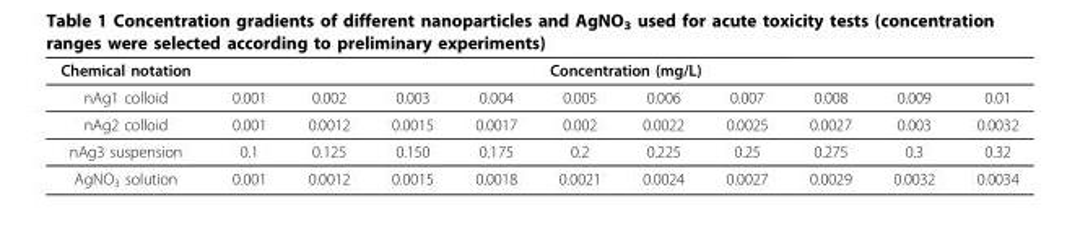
<table><thead><tr><td rowspan="2">Chemical notation nAg1 colloid</td><td colspan="10">Concentration (mg/L)</td></tr><tr><td>0.001</td><td>0.002</td><td>0.003</td><td>0.004</td><td>0.005</td><td>0.006</td><td>0.007</td><td>0.008</td><td>0.009</td><td>0.01</td></tr></thead><tbody><tr><td>nAg2 colloid</td><td>0.001</td><td>0.0012</td><td>0.0015</td><td>0.0017</td><td>0.002</td><td>0.0022</td><td>0.0025</td><td>0.0027</td><td>0.003</td><td>0.0032</td></tr><tr><td>nAg3 suspension</td><td>0.1</td><td>0.125</td><td>0.150</td><td>0.175</td><td>0.2</td><td>0.225</td><td>0.25</td><td>0.275</td><td>0.3</td><td>0.32</td></tr><tr><td>AgNO<sub>3</sub> solution</td><td>0.001</td><td>0.0012</td><td>0.0015</td><td>0.0018</td><td>0.0021</td><td>0.0024</td><td>0.0027</td><td>0.0029</td><td>0.0032</td><td>0.0034</td></tr></tbody></table>